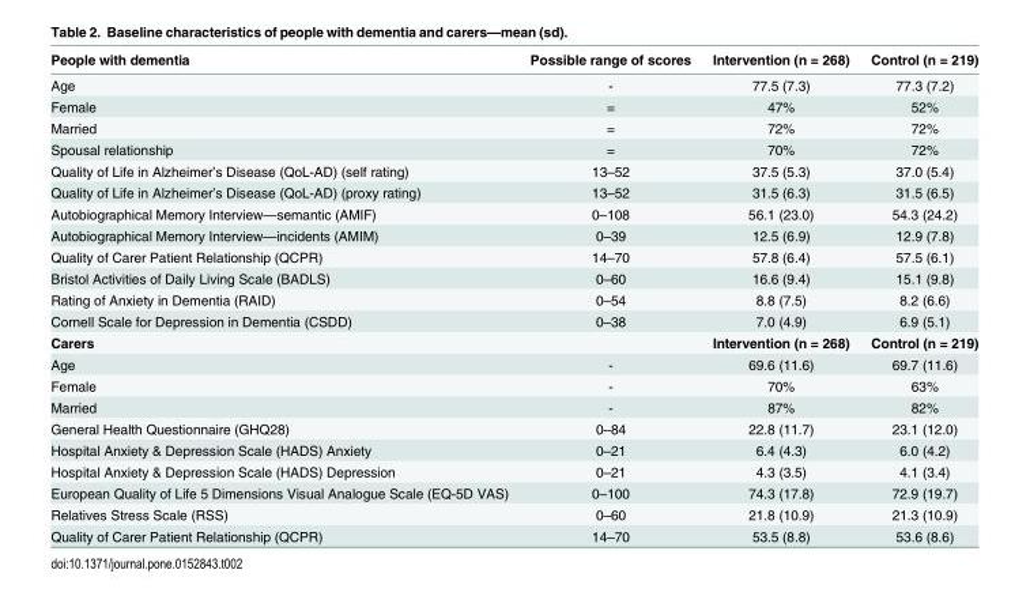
<table><thead><tr><td>People with dementia</td><td>Possible range of scores</td><td>Intervention (n = 268)</td><td>Control (n = 219)</td></tr></thead><tbody><tr><td>Age</td><td>-</td><td>77.5 (7.3)</td><td>77.3 (7.2)</td></tr><tr><td>Female</td><td>=</td><td>47%</td><td>52%</td></tr><tr><td>Married</td><td>=</td><td>72%</td><td>72%</td></tr><tr><td>Spousal relationship</td><td>=</td><td>70%</td><td>72%</td></tr><tr><td>Quality of Life in Alzheimer’s Disease (QoL-AD) (self rating)</td><td>13–52</td><td>37.5 (5.3)</td><td>37.0 (5.4)</td></tr><tr><td>Quality of Life in Alzheimer’s Disease (QoL-AD) (proxy rating)</td><td>13–52</td><td>31.5 (6.3)</td><td>31.5 (6.5)</td></tr><tr><td>Autobiographical Memory Interview—semantic (AMIF)</td><td>0–108</td><td>56.1 (23.0)</td><td>54.3 (24.2)</td></tr><tr><td>Autobiographical Memory Interview—incidents (AMIM)</td><td>0–39</td><td>12.5 (6.9)</td><td>12.9 (7.8)</td></tr><tr><td>Quality of Carer Patient Relationship (QCPR)</td><td>14–70</td><td>57.8 (6.4)</td><td>57.5 (6.1)</td></tr><tr><td>Bristol Activities of Daily Living Scale (BADLS)</td><td>0–60</td><td>16.6 (9.4)</td><td>15.1 (9.8)</td></tr><tr><td>Rating of Anxiety in Dementia (RAID)</td><td>0–54</td><td>8.8 (7.5)</td><td>8.2 (6.6)</td></tr><tr><td>Cornell Scale for Depression in Dementia (CSDD)</td><td>0–38</td><td>7.0 (4.9)</td><td>6.9 (5.1)</td></tr><tr><td>Carers</td><td></td><td>Intervention (n = 268)</td><td>Control (n = 219)</td></tr><tr><td>Age</td><td>-</td><td>69.6 (11.6)</td><td>69.7 (11.6)</td></tr><tr><td>Female</td><td>-</td><td>70%</td><td>63%</td></tr><tr><td>Married</td><td>-</td><td>87%</td><td>82%</td></tr><tr><td>General Health Questionnaire (GHQ28)</td><td>0–84</td><td>22.8 (11.7)</td><td>23.1 (12.0)</td></tr><tr><td>Hospital Anxiety &amp; Depression Scale (HADS) Anxiety</td><td>0–21</td><td>6.4 (4.3)</td><td>6.0 (4.2)</td></tr><tr><td>Hospital Anxiety &amp; Depression Scale (HADS) Depression</td><td>0–21</td><td>4.3 (3.5)</td><td>4.1 (3.4)</td></tr><tr><td>European Quality of Life 5 Dimensions Visual Analogue Scale (EQ-5D VAS)</td><td>0–100</td><td>74.3 (17.8)</td><td>72.9 (19.7)</td></tr><tr><td>Relatives Stress Scale (RSS)</td><td>0–60</td><td>21.8 (10.9)</td><td>21.3 (10.9)</td></tr><tr><td>Quality of Carer Patient Relationship (QCPR)</td><td>14–70</td><td>53.5 (8.8)</td><td>53.6 (8.6)</td></tr></tbody></table>